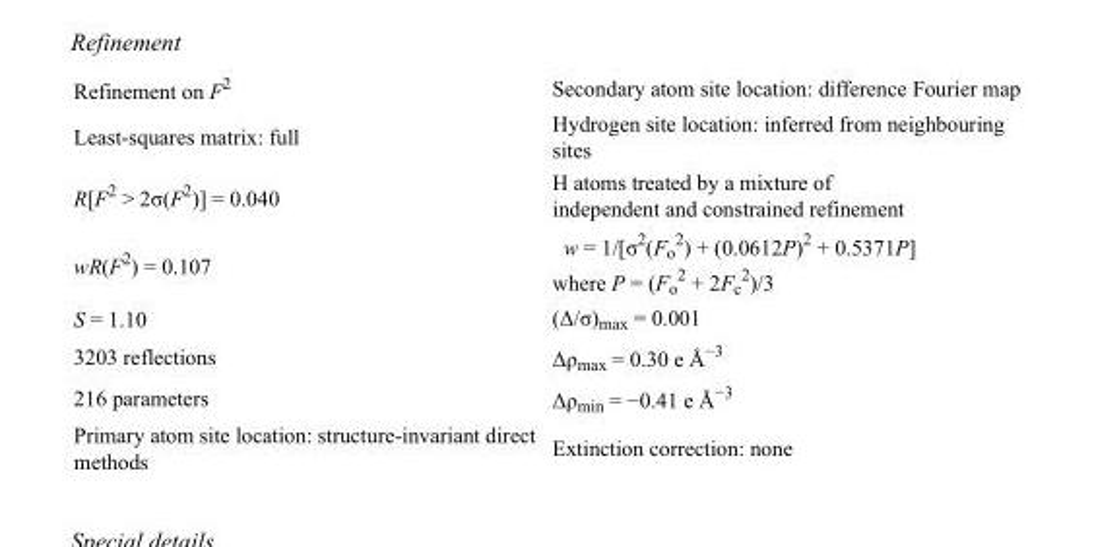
<table><tbody><tr><td>Refinement on F<sup>2</sup></td><td>Secondary atom site location: difference Fourier map</td></tr><tr><td>Least-squares matrix: full</td><td>Hydrogen site location: inferred from neighbouring sites</td></tr><tr><td>R[F<sup>2</sup> &gt; 2σ(F<sup>2</sup>)] = 0.040</td><td>H atoms treated by a mixture of independent and constrained refinement</td></tr><tr><td>wR(F<sup>2</sup>) = 0.107</td><td>w = 1/[σ<sup>2</sup>(F<sub>o</sub> <sup>2</sup>) + (0.0612P)<sup>2</sup> + 0.5371P] where P = (F<sub>o</sub> <sup>2</sup> + 2F<sub>c</sub> <sup>2</sup>)/3</td></tr><tr><td>S = 1.10</td><td>(Δ/σ)<sub>max</sub> = 0.001</td></tr><tr><td>3203 reflections</td><td>Δρ<sub>max</sub> = 0.30 e Å<sup>−3</sup></td></tr><tr><td>216 parameters</td><td>Δρ<sub>min</sub> = −0.41 e Å<sup>−3</sup></td></tr><tr><td>Primary atom site location: structure-invariant direct methods</td><td>Extinction correction: none</td></tr></tbody></table>